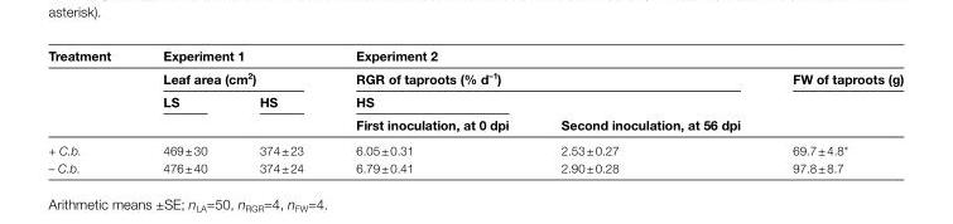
<table><thead><tr><td rowspan="4">Treatment</td><td rowspan="2" colspan="2">Experiment 1 Leaf area (cm<sup>2</sup>)</td><td rowspan="2" colspan="2">Experiment 2 RGR of taproots (% d<sup>–1</sup>)</td><td rowspan="4">FW of taproots (g)</td></tr><tr></tr><tr><td rowspan="2">LS</td><td rowspan="2">HS</td><td rowspan="2">HS First inoculation, at 0 dpi</td><td rowspan="2">Second inoculation, at 56 dpi</td></tr><tr></tr></thead><tbody><tr><td>+ C.b.</td><td>469 ± 30</td><td>374 ± 23</td><td>6.05 ± 0.31</td><td>2.53 ± 0.27</td><td>69.7 ± 4.8*</td></tr><tr><td>– C.b.</td><td>476 ± 40</td><td>374 ± 24</td><td>6.79 ± 0.41</td><td>2.90 ± 0.28</td><td>97.8 ± 8.7</td></tr></tbody></table>